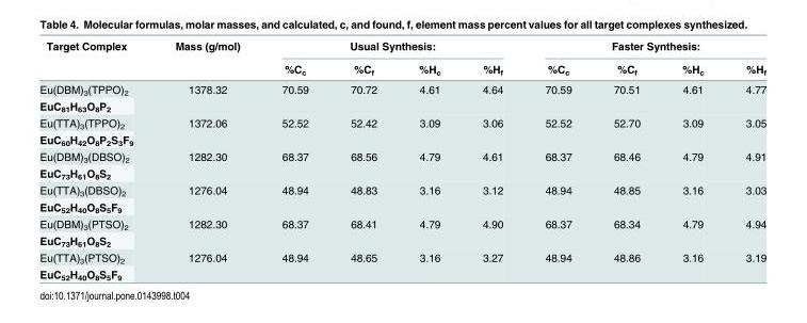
<table><thead><tr><td rowspan="2">Target Complex</td><td rowspan="2">Mass (g/mol)</td><td colspan="4">Usual Synthesis:</td><td colspan="4">Faster Synthesis:</td></tr><tr><td>%C<sub>c</sub></td><td>%C<sub>f</sub></td><td>%H<sub>c</sub></td><td>%H<sub>f</sub></td><td>%C<sub>c</sub></td><td>%C<sub>f</sub></td><td>%H<sub>c</sub></td><td>%H<sub>f</sub></td></tr></thead><tbody><tr><td>Eu(DBM)<sub>3</sub>(TPPO)<sub>2</sub></td><td rowspan="2">1378.32</td><td rowspan="2">70.59</td><td rowspan="2">70.72</td><td rowspan="2">4.61</td><td rowspan="2">4.64</td><td rowspan="2">70.59</td><td rowspan="2">70.51</td><td rowspan="2">4.61</td><td rowspan="2">4.77</td></tr><tr><td>EuC<sub>81</sub>H<sub>63</sub>O<sub>8</sub>P<sub>2</sub></td></tr><tr><td>Eu(TTA)<sub>3</sub>(TPPO)<sub>2</sub></td><td rowspan="2">1372.06</td><td rowspan="2">52.52</td><td rowspan="2">52.42</td><td rowspan="2">3.09</td><td rowspan="2">3.06</td><td rowspan="2">52.52</td><td rowspan="2">52.70</td><td rowspan="2">3.09</td><td rowspan="2">3.05</td></tr><tr><td>EuC<sub>60</sub>H<sub>42</sub>O<sub>8</sub>P<sub>2</sub>S<sub>3</sub>F<sub>9</sub></td></tr><tr><td>Eu(DBM)<sub>3</sub>(DBSO)<sub>2</sub></td><td rowspan="2">1282.30</td><td rowspan="2">68.37</td><td rowspan="2">68.56</td><td rowspan="2">4.79</td><td rowspan="2">4.61</td><td rowspan="2">68.37</td><td rowspan="2">68.46</td><td rowspan="2">4.79</td><td rowspan="2">4.91</td></tr><tr><td>EuC<sub>73</sub>H<sub>61</sub>O<sub>8</sub>S<sub>2</sub></td></tr><tr><td>Eu(TTA)<sub>3</sub>(DBSO)<sub>2</sub></td><td rowspan="2">1276.04</td><td rowspan="2">48.94</td><td rowspan="2">48.83</td><td rowspan="2">3.16</td><td rowspan="2">3.12</td><td rowspan="2">48.94</td><td rowspan="2">48.85</td><td rowspan="2">3.16</td><td rowspan="2">3.03</td></tr><tr><td>EuC<sub>52</sub>H<sub>40</sub>O<sub>8</sub>S<sub>5</sub>F<sub>9</sub></td></tr><tr><td>Eu(DBM)<sub>3</sub>(PTSO)<sub>2</sub></td><td rowspan="2">1282.30</td><td rowspan="2">68.37</td><td rowspan="2">68.41</td><td rowspan="2">4.79</td><td rowspan="2">4.90</td><td rowspan="2">68.37</td><td rowspan="2">68.34</td><td rowspan="2">4.79</td><td rowspan="2">4.94</td></tr><tr><td>EuC<sub>73</sub>H<sub>61</sub>O<sub>8</sub>S<sub>2</sub></td></tr><tr><td>Eu(TTA)<sub>3</sub>(PTSO)<sub>2</sub></td><td rowspan="2">1276.04</td><td rowspan="2">48.94</td><td rowspan="2">48.65</td><td rowspan="2">3.16</td><td rowspan="2">3.27</td><td rowspan="2">48.94</td><td rowspan="2">48.86</td><td rowspan="2">3.16</td><td rowspan="2">3.19</td></tr><tr><td>EuC<sub>52</sub>H<sub>40</sub>O<sub>8</sub>S<sub>5</sub>F<sub>9</sub></td></tr></tbody></table>